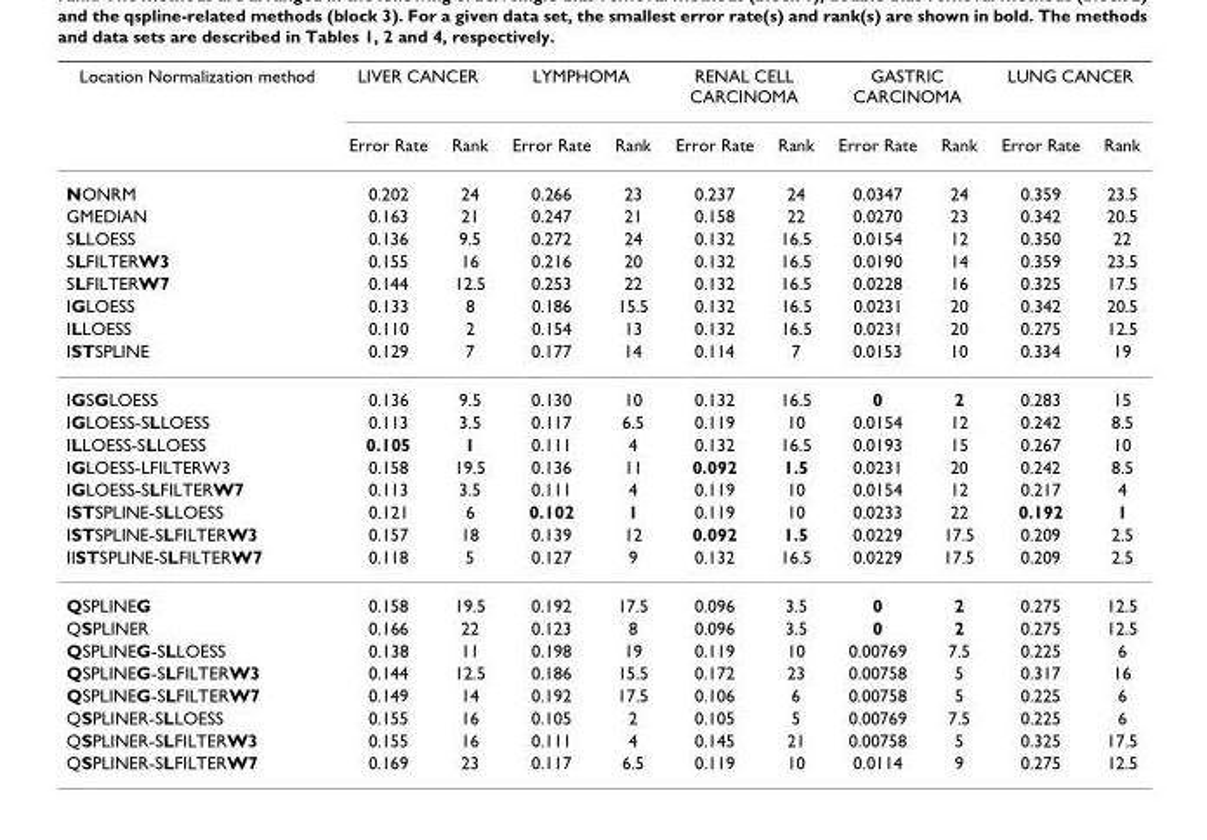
<table><thead><tr><td rowspan="2">Location Normalization method</td><td colspan="2">LIVER CANCER</td><td colspan="2">LYMPHOMA</td><td colspan="2">RENAL CELL CARCINOMA</td><td colspan="2">GASTRIC CARCINOMA</td><td colspan="2">LUNG CANCER</td></tr><tr><td>Error Rate</td><td>Rank</td><td>Error Rate</td><td>Rank</td><td>Error Rate</td><td>Rank</td><td>Error Rate</td><td>Rank</td><td>Error Rate</td><td>Rank</td></tr></thead><tbody><tr><td>NONRM</td><td>0.202</td><td>24</td><td>0.266</td><td>23</td><td>0.237</td><td>24</td><td>0.0347</td><td>24</td><td>0.359</td><td>23.5</td></tr><tr><td>GMEDIAN</td><td>0.163</td><td>21</td><td>0.247</td><td>21</td><td>0.158</td><td>22</td><td>0.0270</td><td>23</td><td>0.342</td><td>20.5</td></tr><tr><td>SLLOESS</td><td>0.136</td><td>9.5</td><td>0.272</td><td>24</td><td>0.132</td><td>16.5</td><td>0.0154</td><td>12</td><td>0.350</td><td>22</td></tr><tr><td>SLFILTERW3</td><td>0.155</td><td>16</td><td>0.216</td><td>20</td><td>0.132</td><td>16.5</td><td>0.0190</td><td>14</td><td>0.359</td><td>23.5</td></tr><tr><td>SLFILTERW7</td><td>0.144</td><td>12.5</td><td>0.253</td><td>22</td><td>0.132</td><td>16.5</td><td>0.0228</td><td>16</td><td>0.325</td><td>17.5</td></tr><tr><td>IGLOESS</td><td>0.133</td><td>8</td><td>0.186</td><td>15.5</td><td>0.132</td><td>16.5</td><td>0.0231</td><td>20</td><td>0.342</td><td>20.5</td></tr><tr><td>ILLOESS</td><td>0.110</td><td>2</td><td>0.154</td><td>13</td><td>0.132</td><td>16.5</td><td>0.0231</td><td>20</td><td>0.275</td><td>12.5</td></tr><tr><td>ISTSPLINE</td><td>0.129</td><td>7</td><td>0.177</td><td>14</td><td>0.114</td><td>7</td><td>0.0153</td><td>10</td><td>0.334</td><td>19</td></tr><tr><td>IGSGLOESS</td><td>0.136</td><td>9.5</td><td>0.130</td><td>10</td><td>0.132</td><td>16.5</td><td>0</td><td>2</td><td>0.283</td><td>15</td></tr><tr><td>IGLOESS-SLLOESS</td><td>0.113</td><td>3.5</td><td>0.117</td><td>6.5</td><td>0.119</td><td>10</td><td>0.0154</td><td>12</td><td>0.242</td><td>8.5</td></tr><tr><td>ILLOESS-SLLOESS</td><td>0.105</td><td>1</td><td>0.111</td><td>4</td><td>0.132</td><td>16.5</td><td>0.0193</td><td>15</td><td>0.267</td><td>10</td></tr><tr><td>IGLOESS-LFILTERW3</td><td>0.158</td><td>19.5</td><td>0.136</td><td>11</td><td>0.092</td><td>1.5</td><td>0.0231</td><td>20</td><td>0.242</td><td>8.5</td></tr><tr><td>IGLOESS-SLFILTERW7</td><td>0.113</td><td>3.5</td><td>0.111</td><td>4</td><td>0.119</td><td>10</td><td>0.0154</td><td>12</td><td>0.217</td><td>4</td></tr><tr><td>ISTSPLINE-SLLOESS</td><td>0.121</td><td>6</td><td>0.102</td><td>1</td><td>0.119</td><td>10</td><td>0.0233</td><td>22</td><td>0.192</td><td>1</td></tr><tr><td>ISTSPLINE-SLFILTERW3</td><td>0.157</td><td>18</td><td>0.139</td><td>12</td><td>0.092</td><td>1.5</td><td>0.0229</td><td>17.5</td><td>0.209</td><td>2.5</td></tr><tr><td>IISTSPLINE-SLFILTERW7</td><td>0.118</td><td>5</td><td>0.127</td><td>9</td><td>0.132</td><td>16.5</td><td>0.0229</td><td>17.5</td><td>0.209</td><td>2.5</td></tr><tr><td>QSPLINEG</td><td>0.158</td><td>19.5</td><td>0.192</td><td>17.5</td><td>0.096</td><td>3.5</td><td>0</td><td>2</td><td>0.275</td><td>12.5</td></tr><tr><td>QSPLINER</td><td>0.166</td><td>22</td><td>0.123</td><td>8</td><td>0.096</td><td>3.5</td><td>0</td><td>2</td><td>0.275</td><td>12.5</td></tr><tr><td>QSPLINEG-SLLOESS</td><td>0.138</td><td>11</td><td>0.198</td><td>19</td><td>0.119</td><td>10</td><td>0.00769</td><td>7.5</td><td>0.225</td><td>6</td></tr><tr><td>QSPLINEG-SLFILTERW3</td><td>0.144</td><td>12.5</td><td>0.186</td><td>15.5</td><td>0.172</td><td>23</td><td>0.00758</td><td>5</td><td>0.317</td><td>16</td></tr><tr><td>QSPLINEG-SLFILTERW7</td><td>0.149</td><td>14</td><td>0.192</td><td>17.5</td><td>0.106</td><td>6</td><td>0.00758</td><td>5</td><td>0.225</td><td>6</td></tr><tr><td>QSPLINER-SLLOESS</td><td>0.155</td><td>16</td><td>0.105</td><td>2</td><td>0.105</td><td>5</td><td>0.00769</td><td>7.5</td><td>0.225</td><td>6</td></tr><tr><td>QSPLINER-SLFILTERW3</td><td>0.155</td><td>16</td><td>0.111</td><td>4</td><td>0.145</td><td>21</td><td>0.00758</td><td>5</td><td>0.325</td><td>17.5</td></tr><tr><td>QSPLINER-SLFILTERW7</td><td>0.169</td><td>23</td><td>0.117</td><td>6.5</td><td>0.119</td><td>10</td><td>0.0114</td><td>9</td><td>0.275</td><td>12.5</td></tr></tbody></table>